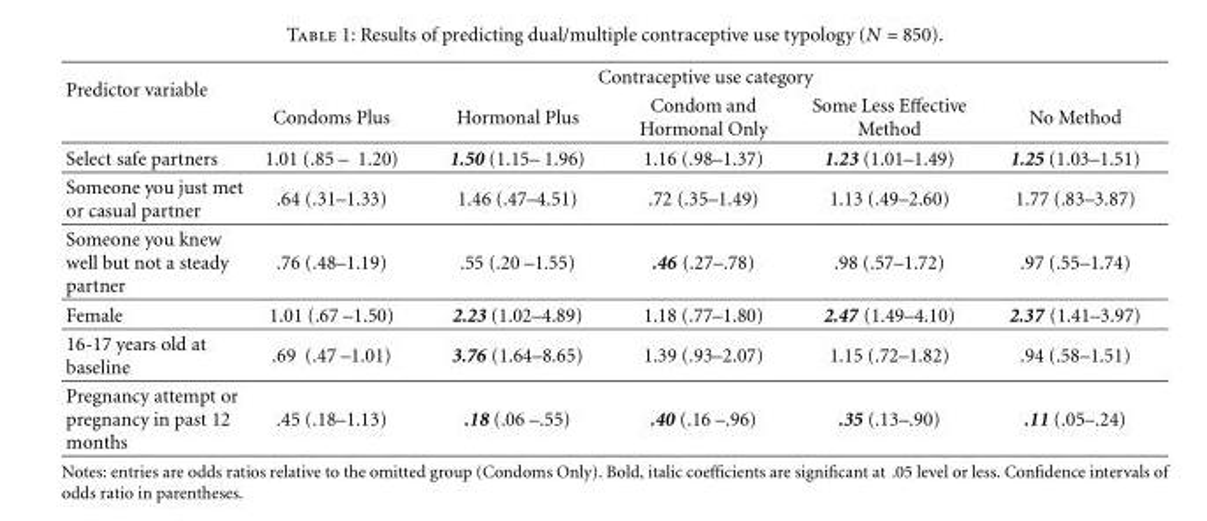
<table><thead><tr><td rowspan="2">Predictor variable</td><td colspan="5">Contraceptive use category</td></tr><tr><td>Condoms Plus</td><td>Hormonal Plus</td><td>Condom and Hormonal Only</td><td>Some Less Effective Method</td><td>No Method</td></tr></thead><tbody><tr><td>Select safe partners</td><td>1.01 (.85 – 1.20)</td><td>1.50 (1.15– 1.96)</td><td>1.16 (.98–1.37)</td><td>1.23 (1.01–1.49)</td><td>1.25 (1.03–1.51)</td></tr><tr><td>Someone you just met or casual partner</td><td>.64 (.31–1.33)</td><td>1.46 (.47–4.51)</td><td>.72 (.35–1.49)</td><td>1.13 (.49–2.60)</td><td>1.77 (.83–3.87)</td></tr><tr><td>Someone you knew well but not a steady partner</td><td>.76 (.48–1.19)</td><td>.55 (.20 –1.55)</td><td>.46 (.27–.78)</td><td>.98 (.57–1.72)</td><td>.97 (.55–1.74)</td></tr><tr><td>Female</td><td>1.01 (.67 –1.50)</td><td>2.23 (1.02–4.89)</td><td>1.18 (.77–1.80)</td><td>2.47 (1.49–4.10)</td><td>2.37 (1.41–3.97)</td></tr><tr><td>16-17 years old at baseline</td><td>.69 (.47 –1.01)</td><td>3.76 (1.64–8.65)</td><td>1.39 (.93–2.07)</td><td>1.15 (.72–1.82)</td><td>.94 (.58–1.51)</td></tr><tr><td>Pregnancy attempt or pregnancy in past 12 months</td><td>.45 (.18–1.13)</td><td>.18 (.06 –.55)</td><td>.40 (.16 –.96)</td><td>.35 (.13–.90)</td><td>.11 (.05–.24)</td></tr></tbody></table>